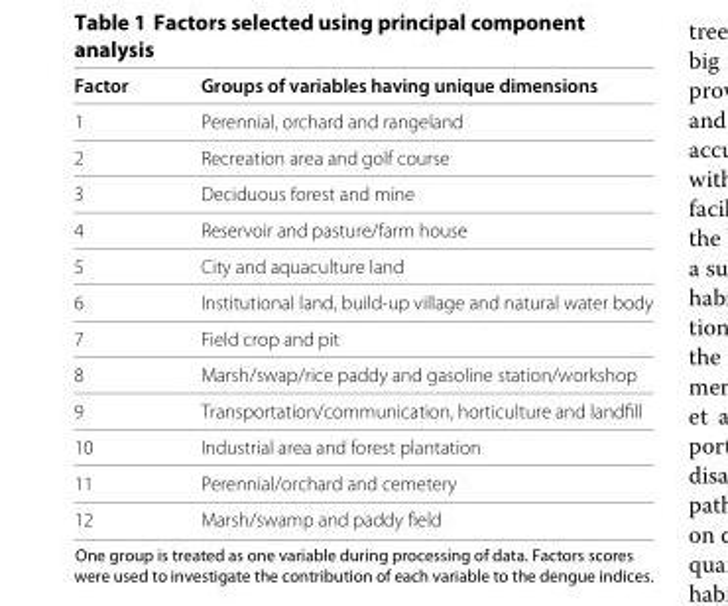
<table><thead><tr><td>Factor</td><td>Groups of variables having unique dimensions</td></tr></thead><tbody><tr><td>1</td><td>Perennial, orchard and rangeland</td></tr><tr><td>2</td><td>Recreation area and golf course</td></tr><tr><td>3</td><td>Deciduous forest and mine</td></tr><tr><td>4</td><td>Reservoir and pasture/farm house</td></tr><tr><td>5</td><td>City and aquaculture land</td></tr><tr><td>6</td><td>Institutional land, build-up village and natural water body</td></tr><tr><td>7</td><td>Field crop and pit</td></tr><tr><td>8</td><td>Marsh/swap/rice paddy and gasoline station/workshop</td></tr><tr><td>9</td><td>Transportation/communication, horticulture and landfill</td></tr><tr><td>10</td><td>Industrial area and forest plantation</td></tr><tr><td>11</td><td>Perennial/orchard and cemetery</td></tr><tr><td>12</td><td>Marsh/swamp and paddy field</td></tr></tbody></table>